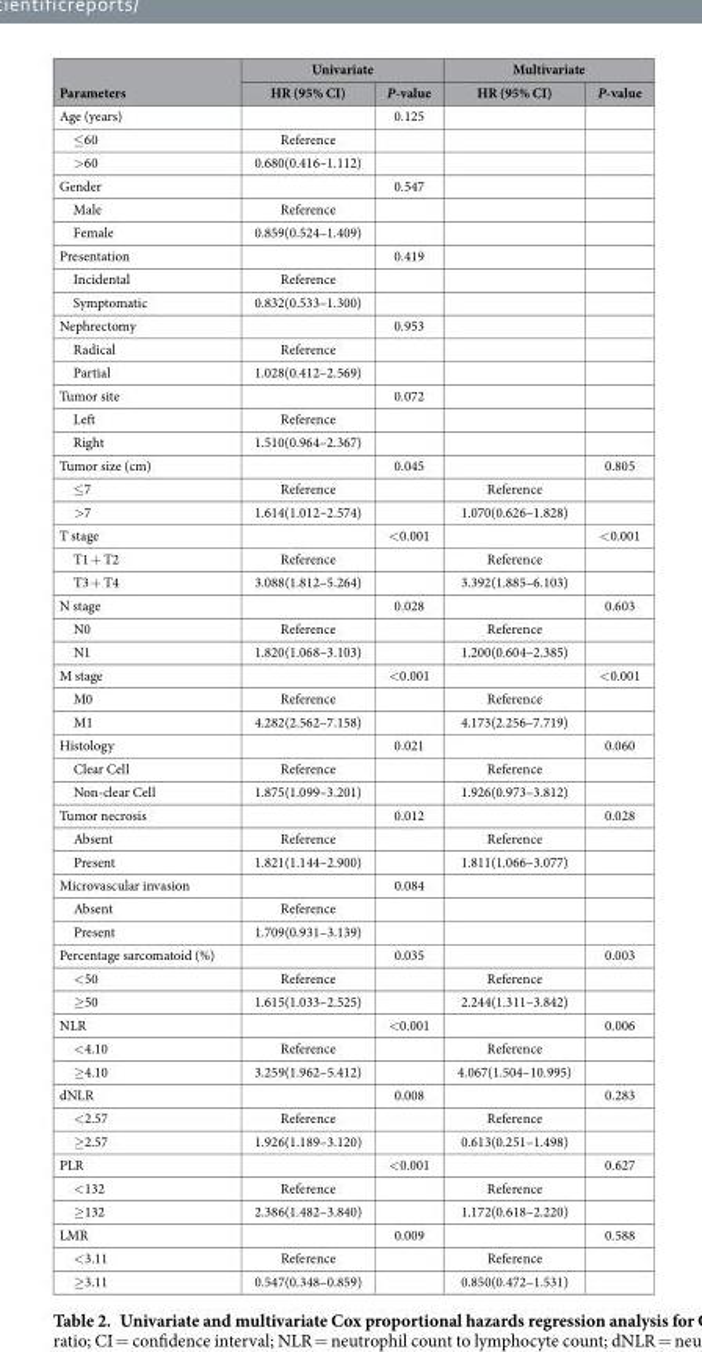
<table><thead><tr><td rowspan="2">Parameters</td><td colspan="2">Univariate</td><td colspan="2">Multivariate</td></tr><tr><td>HR (95% CI)</td><td>P-value</td><td>HR (95% CI)</td><td>P-value</td></tr></thead><tbody><tr><td>Age (years)</td><td></td><td>0.125</td><td></td><td></td></tr><tr><td>≤60</td><td>Reference</td><td></td><td></td><td></td></tr><tr><td>&gt;60</td><td>0.680(0.416–1.112)</td><td></td><td></td><td></td></tr><tr><td>Gender</td><td></td><td>0.547</td><td></td><td></td></tr><tr><td>Male</td><td>Reference</td><td></td><td></td><td></td></tr><tr><td>Female</td><td>0.859(0.524–1.409)</td><td></td><td></td><td></td></tr><tr><td>Presentation</td><td></td><td>0.419</td><td></td><td></td></tr><tr><td>Incidental</td><td>Reference</td><td></td><td></td><td></td></tr><tr><td>Symptomatic</td><td>0.832(0.533–1.300)</td><td></td><td></td><td></td></tr><tr><td>Nephrectomy</td><td></td><td>0.953</td><td></td><td></td></tr><tr><td>Radical</td><td>Reference</td><td></td><td></td><td></td></tr><tr><td>Partial</td><td>1.028(0.412–2.569)</td><td></td><td></td><td></td></tr><tr><td>Tumor site</td><td></td><td>0.072</td><td></td><td></td></tr><tr><td>Left</td><td>Reference</td><td></td><td></td><td></td></tr><tr><td>Right</td><td>1.510(0.964–2.367)</td><td></td><td></td><td></td></tr><tr><td>Tumor size (cm)</td><td></td><td>0.045</td><td></td><td>0.805</td></tr><tr><td>≤7</td><td>Reference</td><td></td><td>Reference</td><td></td></tr><tr><td>&gt;7</td><td>1.614(1.012–2.574)</td><td></td><td>1.070(0.626–1.828)</td><td></td></tr><tr><td>T stage</td><td></td><td>&lt;0.001</td><td></td><td>&lt;0.001</td></tr><tr><td>T1 + T2</td><td>Reference</td><td></td><td>Reference</td><td></td></tr><tr><td>T3 + T4</td><td>3.088(1.812–5.264)</td><td></td><td>3.392(1.885–6.103)</td><td></td></tr><tr><td>N stage</td><td></td><td>0.028</td><td></td><td>0.603</td></tr><tr><td>N0</td><td>Reference</td><td></td><td>Reference</td><td></td></tr><tr><td>N1</td><td>1.820(1.068–3.103)</td><td></td><td>1.200(0.604–2.385)</td><td></td></tr><tr><td>M stage</td><td></td><td>&lt;0.001</td><td></td><td>&lt;0.001</td></tr><tr><td>M0</td><td>Reference</td><td></td><td>Reference</td><td></td></tr><tr><td>M1</td><td>4.282(2.562–7.158)</td><td></td><td>4.173(2.256–7.719)</td><td></td></tr><tr><td>Histology</td><td></td><td>0.021</td><td></td><td>0.060</td></tr><tr><td>Clear Cell</td><td>Reference</td><td></td><td>Reference</td><td></td></tr><tr><td>Non-clear Cell</td><td>1.875(1.099–3.201)</td><td></td><td>1.926(0.973–3.812)</td><td></td></tr><tr><td>Tumor necrosis</td><td></td><td>0.012</td><td></td><td>0.028</td></tr><tr><td>Absent</td><td>Reference</td><td></td><td>Reference</td><td></td></tr><tr><td>Present</td><td>1.821(1.144–2.900)</td><td></td><td>1.811(1.066–3.077)</td><td></td></tr><tr><td>Microvascular invasion</td><td></td><td>0.084</td><td></td><td></td></tr><tr><td>Absent</td><td>Reference</td><td></td><td></td><td></td></tr><tr><td>Present</td><td>1.709(0.931–3.139)</td><td></td><td></td><td></td></tr><tr><td>Percentage sarcomatoid (%)</td><td></td><td>0.035</td><td></td><td>0.003</td></tr><tr><td>&lt;50</td><td>Reference</td><td></td><td>Reference</td><td></td></tr><tr><td>≥50</td><td>1.615(1.033–2.525)</td><td></td><td>2.244(1.311–3.842)</td><td></td></tr><tr><td>NLR</td><td></td><td>&lt;0.001</td><td></td><td>0.006</td></tr><tr><td>&lt;4.10</td><td>Reference</td><td></td><td>Reference</td><td></td></tr><tr><td>≥4.10</td><td>3.259(1.962–5.412)</td><td></td><td>4.067(1.504–10.995)</td><td></td></tr><tr><td>dNLR</td><td></td><td>0.008</td><td></td><td>0.283</td></tr><tr><td>&lt;2.57</td><td>Reference</td><td></td><td>Reference</td><td></td></tr><tr><td>≥2.57</td><td>1.926(1.189–3.120)</td><td></td><td>0.613(0.251–1.498)</td><td></td></tr><tr><td>PLR</td><td></td><td>&lt;0.001</td><td></td><td>0.627</td></tr><tr><td>&lt;132</td><td>Reference</td><td></td><td>Reference</td><td></td></tr><tr><td>≥132</td><td>2.386(1.482–3.840)</td><td></td><td>1.172(0.618–2.220)</td><td></td></tr><tr><td>LMR</td><td></td><td>0.009</td><td></td><td>0.588</td></tr><tr><td>&lt;3.11</td><td>Reference</td><td></td><td>Reference</td><td></td></tr><tr><td>≥3.11</td><td>0.547(0.348–0.859)</td><td></td><td>0.850(0.472–1.531)</td><td></td></tr></tbody></table>